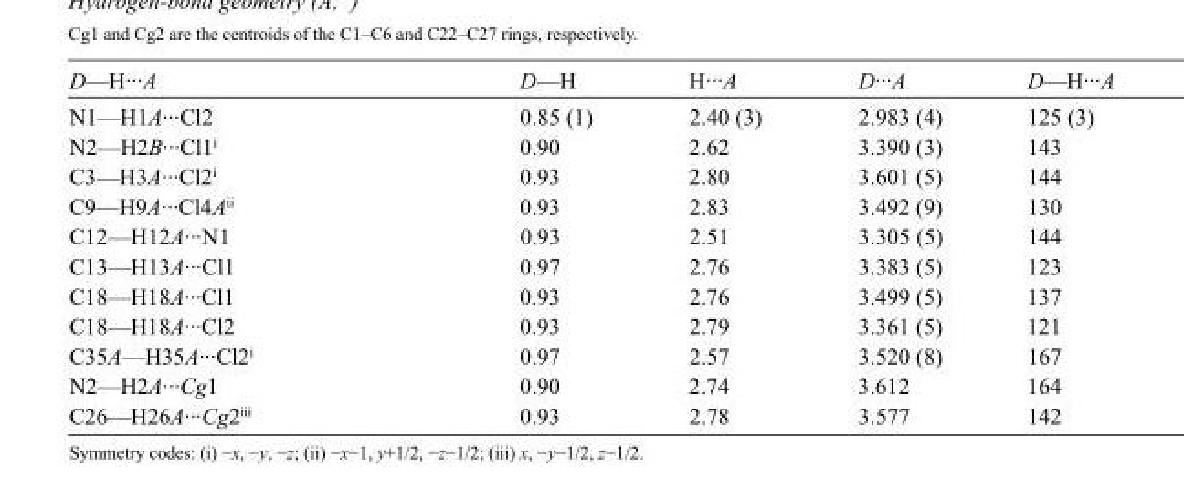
<table><tbody><tr><td>D—H···A</td><td>D—H</td><td>H···A</td><td>D···A</td><td>D—H···A</td></tr><tr><td>N1—H1A···Cl2</td><td>0.85 (1)</td><td>2.40 (3)</td><td>2.983 (4)</td><td>125 (3)</td></tr><tr><td>N2—H2B···Cl1<sup>i</sup></td><td>0.90</td><td>2.62</td><td>3.390 (3)</td><td>143</td></tr><tr><td>C3—H3A···Cl2<sup>i</sup></td><td>0.93</td><td>2.80</td><td>3.601 (5)</td><td>144</td></tr><tr><td>C9—H9A···Cl4A<sup>ii</sup></td><td>0.93</td><td>2.83</td><td>3.492 (9)</td><td>130</td></tr><tr><td>C12—H12A···N1</td><td>0.93</td><td>2.51</td><td>3.305 (5)</td><td>144</td></tr><tr><td>C13—H13A···Cl1</td><td>0.97</td><td>2.76</td><td>3.383 (5)</td><td>123</td></tr><tr><td>C18—H18A···Cl1</td><td>0.93</td><td>2.76</td><td>3.499 (5)</td><td>137</td></tr><tr><td>C18—H18A···Cl2</td><td>0.93</td><td>2.79</td><td>3.361 (5)</td><td>121</td></tr><tr><td>C35A—H35A···Cl2<sup>i</sup></td><td>0.97</td><td>2.57</td><td>3.520 (8)</td><td>167</td></tr><tr><td>N2—H2A···Cg1</td><td>0.90</td><td>2.74</td><td>3.612</td><td>164</td></tr><tr><td>C26—H26A···Cg2<sup>iii</sup></td><td>0.93</td><td>2.78</td><td>3.577</td><td>142</td></tr></tbody></table>